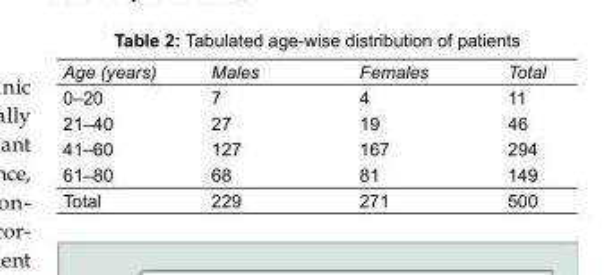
<table><tbody><tr><td>Age (years)</td><td>Males</td><td>Females</td><td>Total</td></tr><tr><td>0–20</td><td>7</td><td>4</td><td>11</td></tr><tr><td>21–40</td><td>27</td><td>19</td><td>46</td></tr><tr><td>41–60</td><td>127</td><td>167</td><td>294</td></tr><tr><td>61–80</td><td>68</td><td>81</td><td>149</td></tr><tr><td>Total</td><td>229</td><td>271</td><td>500</td></tr></tbody></table>